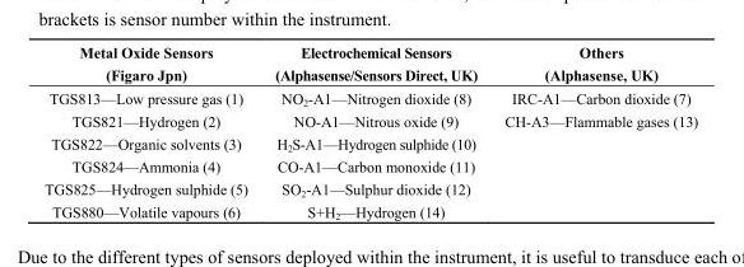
<table><thead><tr><td>Metal Oxide Sensors (Figaro Jpn)</td><td>Electrochemical Sensors (Alphasense/Sensors Direct, UK)</td><td>Others (Alphasense, UK)</td></tr></thead><tbody><tr><td>TGS813—Low pressure gas (1)</td><td>NO<sub>2</sub>-A1—Nitrogen dioxide (8)</td><td>IRC-A1—Carbon dioxide (7)</td></tr><tr><td>TGS821—Hydrogen (2)</td><td>NO-A1—Nitrous oxide (9)</td><td>CH-A3—Flammable gases (13)</td></tr><tr><td>TGS822—Organic solvents (3)</td><td>H<sub>2</sub>S-A1—Hydrogen sulphide (10)</td><td></td></tr><tr><td>TGS824—Ammonia (4)</td><td>CO-A1—Carbon monoxide (11)</td><td></td></tr><tr><td>TGS825—Hydrogen sulphide (5)</td><td>SO<sub>2</sub>-A1—Sulphur dioxide (12)</td><td></td></tr><tr><td>TGS880—Volatile vapours (6)</td><td>S+H<sub>2</sub>—Hydrogen (14)</td><td></td></tr></tbody></table>